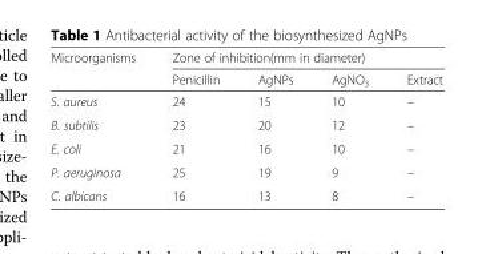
<table><thead><tr><td rowspan="2">Microorganisms</td><td colspan="4">Zone of inhibition(mm in diameter)</td></tr><tr><td>Penicillin</td><td>AgNPs</td><td>AgNO<sub>3</sub></td><td>Extract</td></tr></thead><tbody><tr><td>S. aureus</td><td>24</td><td>15</td><td>10</td><td>–</td></tr><tr><td>B. subtilis</td><td>23</td><td>20</td><td>12</td><td>–</td></tr><tr><td>E. coli</td><td>21</td><td>16</td><td>10</td><td>–</td></tr><tr><td>P. aeruginosa</td><td>25</td><td>19</td><td>9</td><td>–</td></tr><tr><td>C. albicans</td><td>16</td><td>13</td><td>8</td><td>–</td></tr></tbody></table>